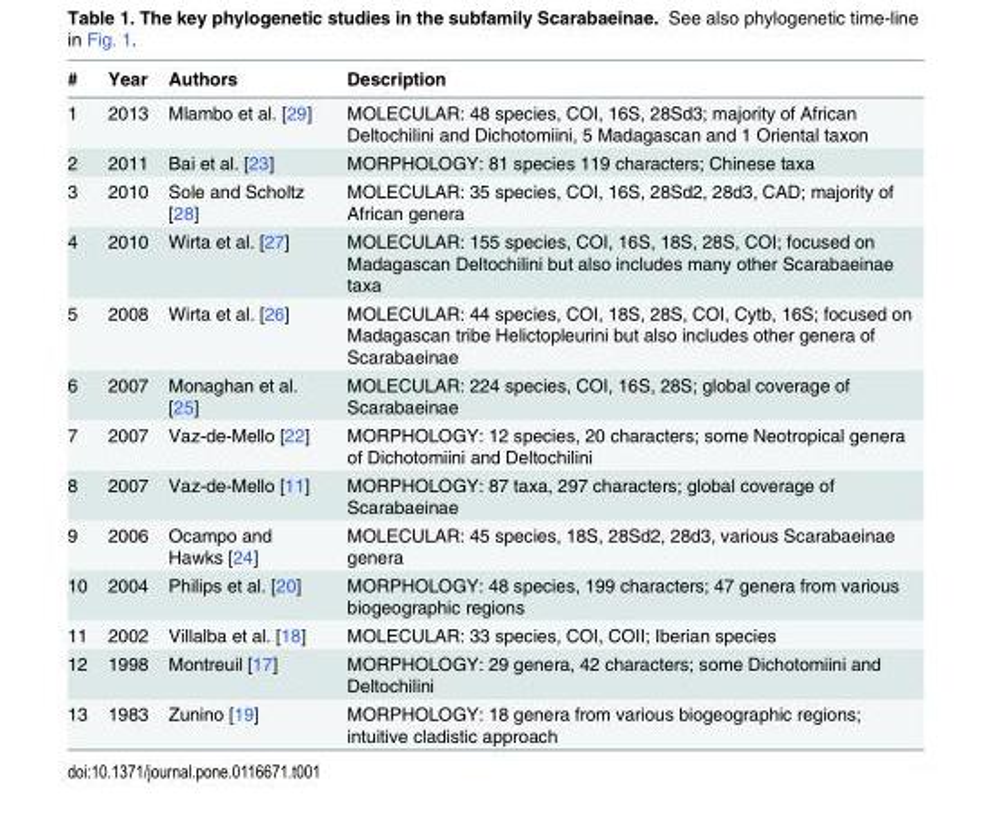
<table><thead><tr><td>#</td><td>Year</td><td>Authors</td><td>Description</td></tr></thead><tbody><tr><td>1</td><td>2013</td><td>Mlambo et al. [29]</td><td>MOLECULAR: 48 species, COI, 16S, 28Sd3; majority of African Deltochilini and Dichotomiini, 5 Madagascan and 1 Oriental taxon</td></tr><tr><td>2</td><td>2011</td><td>Bai et al. [23]</td><td>MORPHOLOGY: 81 species 119 characters; Chinese taxa</td></tr><tr><td>3</td><td>2010</td><td>Sole and Scholtz [28]</td><td>MOLECULAR: 35 species, COI, 16S, 28Sd2, 28d3, CAD; majority of African genera</td></tr><tr><td>4</td><td>2010</td><td>Wirta et al. [27]</td><td>MOLECULAR: 155 species, COI, 16S, 18S, 28S, COI; focused on Madagascan Deltochilini but also includes many other Scarabaeinae taxa</td></tr><tr><td>5</td><td>2008</td><td>Wirta et al. [26]</td><td>MOLECULAR: 44 species, COI, 18S, 28S, COI, Cytb, 16S; focused on Madagascan tribe Helictopleurini but also includes other genera of Scarabaeinae</td></tr><tr><td>6</td><td>2007</td><td>Monaghan et al. [25]</td><td>MOLECULAR: 224 species, COI, 16S, 28S; global coverage of Scarabaeinae</td></tr><tr><td>7</td><td>2007</td><td>Vaz-de-Mello [22]</td><td>MORPHOLOGY: 12 species, 20 characters; some Neotropical genera of Dichotomiini and Deltochilini</td></tr><tr><td>8</td><td>2007</td><td>Vaz-de-Mello [11]</td><td>MORPHOLOGY: 87 taxa, 297 characters; global coverage of Scarabaeinae</td></tr><tr><td>9</td><td>2006</td><td>Ocampo and Hawks [24]</td><td>MOLECULAR: 45 species, 18S, 28Sd2, 28d3, various Scarabaeinae genera</td></tr><tr><td>10</td><td>2004</td><td>Philips et al. [20]</td><td>MORPHOLOGY: 48 species, 199 characters; 47 genera from various biogeographic regions</td></tr><tr><td>11</td><td>2002</td><td>Villalba et al. [18]</td><td>MOLECULAR: 33 species, COI, COII; Iberian species</td></tr><tr><td>12</td><td>1998</td><td>Montreuil [17]</td><td>MORPHOLOGY: 29 genera, 42 characters; some Dichotomiini and Deltochilini</td></tr><tr><td>13</td><td>1983</td><td>Zunino [19]</td><td>MORPHOLOGY: 18 genera from various biogeographic regions; intuitive cladistic approach</td></tr></tbody></table>